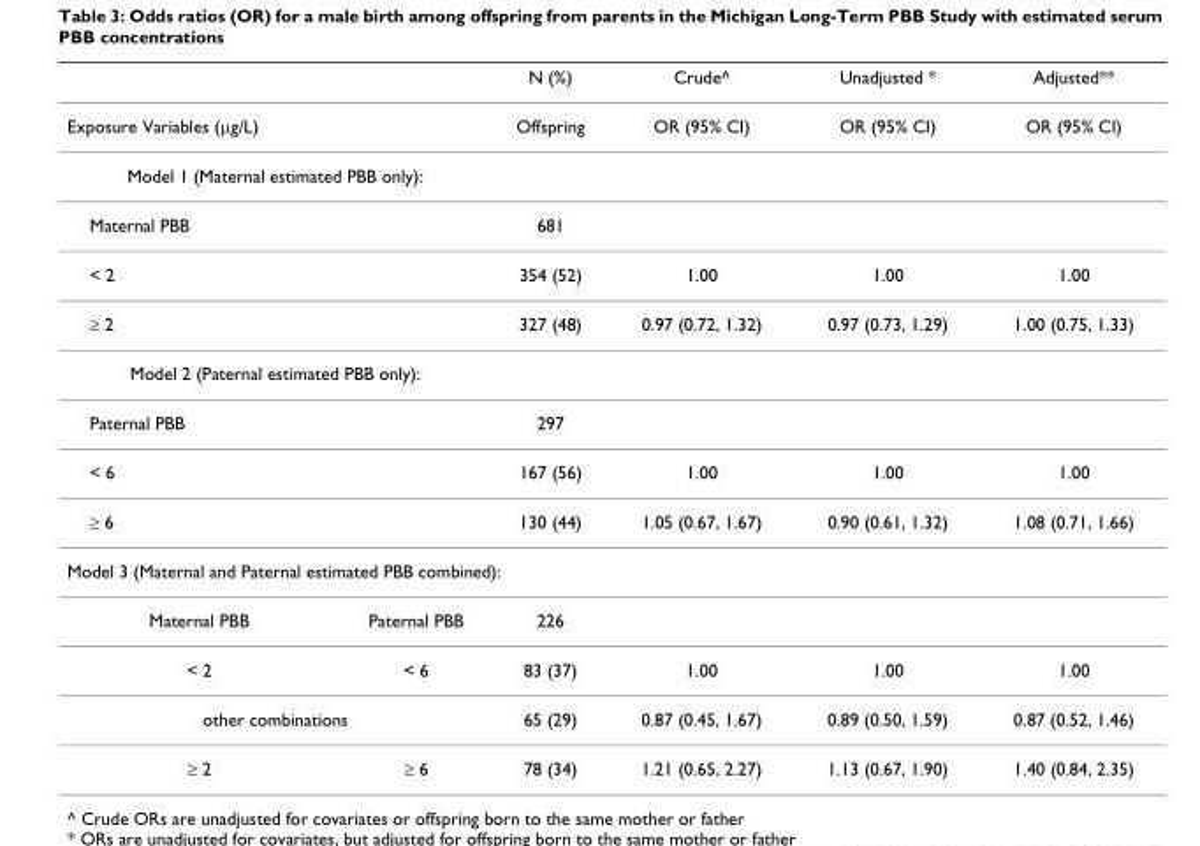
<table><thead><tr><td></td><td></td><td>N (%)</td><td>Crude^</td><td>Unadjusted *</td><td>Adjusted**</td></tr></thead><tbody><tr><td>Exposure Variables (μg/L)</td><td></td><td>Offspring</td><td>OR (95% CI)</td><td>OR (95% CI)</td><td>OR (95% CI)</td></tr><tr><td colspan="6">Model 1 (Maternal estimated PBB only):</td></tr><tr><td>Maternal PBB</td><td></td><td>681</td><td></td><td></td><td></td></tr><tr><td>&lt; 2</td><td></td><td>354 (52)</td><td>1.00</td><td>1.00</td><td>1.00</td></tr><tr><td>≥ 2</td><td></td><td>327 (48)</td><td>0.97 (0.72, 1.32)</td><td>0.97 (0.73, 1.29)</td><td>1.00 (0.75, 1.33)</td></tr><tr><td colspan="6">Model 2 (Paternal estimated PBB only):</td></tr><tr><td>Paternal PBB</td><td></td><td>297</td><td></td><td></td><td></td></tr><tr><td>&lt; 6</td><td></td><td>167 (56)</td><td>1.00</td><td>1.00</td><td>1.00</td></tr><tr><td>≥ 6</td><td></td><td>130 (44)</td><td>1.05 (0.67, 1.67)</td><td>0.90 (0.61, 1.32)</td><td>1.08 (0.71, 1.66)</td></tr><tr><td colspan="6">Model 3 (Maternal and Paternal estimated PBB combined):</td></tr><tr><td>Maternal PBB</td><td>Paternal PBB</td><td>226</td><td></td><td></td><td></td></tr><tr><td>&lt; 2</td><td>&lt; 6</td><td>83 (37)</td><td>1.00</td><td>1.00</td><td>1.00</td></tr><tr><td colspan="2">other combinations</td><td>65 (29)</td><td>0.87 (0.45, 1.67)</td><td>0.89 (0.50, 1.59)</td><td>0.87 (0.52, 1.46)</td></tr><tr><td>≥ 2</td><td>≥ 6</td><td>78 (34)</td><td>1.21 (0.65, 2.27)</td><td>1.13 (0.67, 1.90)</td><td>1.40 (0.84, 2.35)</td></tr></tbody></table>